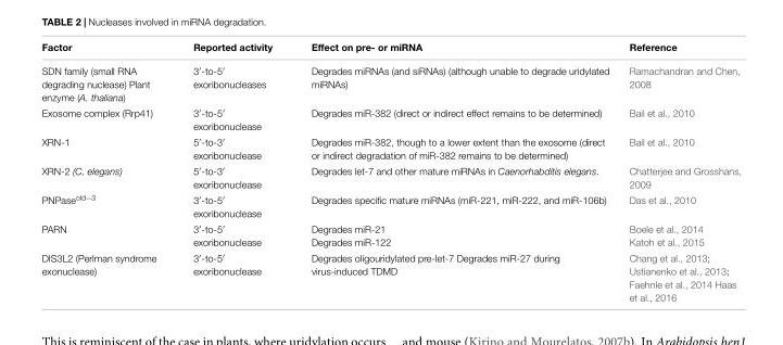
<table><thead><tr><td>Factor</td><td>Reported activity</td><td>Effect on pre- or miRNA</td><td>Reference</td></tr></thead><tbody><tr><td>SDN family (small RNA degrading nuclease) Plant enzyme (A. thaliana)</td><td>3′-to-5′ exoribonucleases</td><td>Degrades miRNAs (and siRNAs) (although unable to degrade uridylated miRNAs)</td><td>Ramachandran and Chen, 2008</td></tr><tr><td>Exosome complex (Rrp41)</td><td>3′-to-5′ exoribonuclease</td><td>Degrades miR-382 (direct or indirect effect remains to be determined)</td><td>Bail et al., 2010</td></tr><tr><td>XRN-1</td><td>5′-to-3′ exoribonuclease</td><td>Degrades miR-382, though to a lower extent than the exosome (direct or indirect degradation of miR-382 remains to be determined)</td><td>Bail et al., 2010</td></tr><tr><td>XRN-2 (C. elegans)</td><td>5′-to-3′ exoribonuclease</td><td>Degrades let-7 and other mature miRNAs in Caenorhabditis elegans.</td><td>Chatterjee and Grosshans, 2009</td></tr><tr><td>PNPase<sup>old−3</sup></td><td>3′-to-5′ exoribonuclease</td><td>Degrades specific mature miRNAs (miR-221, miR-222, and miR-106b)</td><td>Das et al., 2010</td></tr><tr><td>PARN</td><td>3′-to-5′ exoribonuclease</td><td>Degrades miR-21 Degrades miR-122</td><td>Boele et al., 2014 Katoh et al., 2015</td></tr><tr><td>DIS3L2 (Perlman syndrome exonuclease)</td><td>3′-to-5′ exoribonuclease</td><td>Degrades oligouridylated pre-let-7 Degrades miR-27 during virus-induced TDMD</td><td>Chang et al., 2013; Ustianenko et al., 2013; Faehnle et al., 2014 Haas et al., 2016</td></tr></tbody></table>